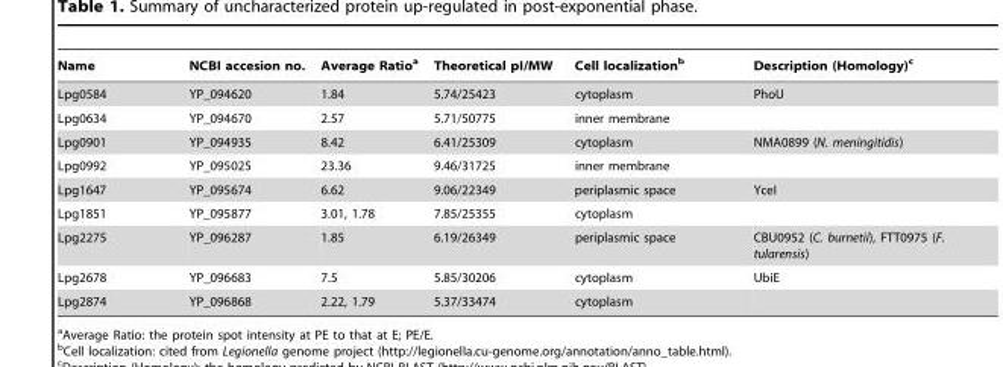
<table><thead><tr><td>Name</td><td>NCBI accesion no.</td><td>Average Ratio<sup>a</sup></td><td>Theoretical pI/MW</td><td>Cell localization<sup>b</sup></td><td>Description (Homology)<sup>c</sup></td></tr></thead><tbody><tr><td>Lpg0584</td><td>YP_094620</td><td>1.84</td><td>5.74/25423</td><td>cytoplasm</td><td>PhoU</td></tr><tr><td>Lpg0634</td><td>YP_094670</td><td>2.57</td><td>5.71/50775</td><td>inner membrane</td><td></td></tr><tr><td>Lpg0901</td><td>YP_094935</td><td>8.42</td><td>6.41/25309</td><td>cytoplasm</td><td>NMA0899 (N. meningitidis)</td></tr><tr><td>Lpg0992</td><td>YP_095025</td><td>23.36</td><td>9.46/31725</td><td>inner membrane</td><td></td></tr><tr><td>Lpg1647</td><td>YP_095674</td><td>6.62</td><td>9.06/22349</td><td>periplasmic space</td><td>YceI</td></tr><tr><td>Lpg1851</td><td>YP_095877</td><td>3.01, 1.78</td><td>7.85/25355</td><td>cytoplasm</td><td></td></tr><tr><td>Lpg2275</td><td>YP_096287</td><td>1.85</td><td>6.19/26349</td><td>periplasmic space</td><td>CBU0952 (C. burnetii), FTT0975 (F. tularensis)</td></tr><tr><td>Lpg2678</td><td>YP_096683</td><td>7.5</td><td>5.85/30206</td><td>cytoplasm</td><td>UbiE</td></tr><tr><td>Lpg2874</td><td>YP_096868</td><td>2.22, 1.79</td><td>5.37/33474</td><td>cytoplasm</td><td></td></tr></tbody></table>